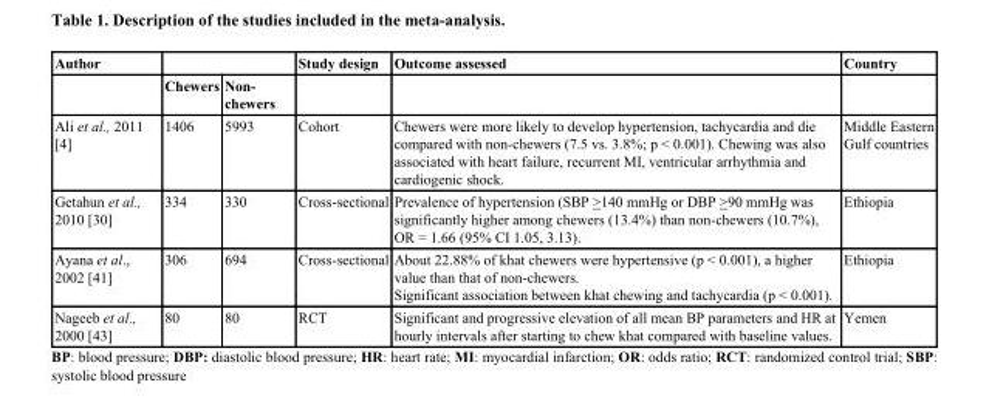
<table><thead><tr><td rowspan="2">Author</td><td rowspan="2">Chewers</td><td rowspan="2">Non- chewers</td><td rowspan="2">Study design</td><td rowspan="2">Outcome assessed</td><td rowspan="2">Country</td></tr><tr></tr></thead><tbody><tr><td>Ali et al., 2011 [4]</td><td>1406</td><td>5993</td><td>Cohort</td><td>Chewers were more likely to develop hypertension, tachycardia and die compared with non-chewers (7.5 vs. 3.8%; p ˂ 0.001). Chewing was also associated with heart failure, recurrent MI, ventricular arrhythmia and cardiogenic shock.</td><td>Middle Eastern Gulf countries</td></tr><tr><td>Getahun et al., 2010 [30]</td><td>334</td><td>330</td><td>Cross-sectional</td><td>Prevalence of hypertension (SBP &gt;140 mmHg or DBP &gt;90 mmHg was significantly higher among chewers (13.4%) than non-chewers (10.7%), OR = 1.66 (95% CI 1.05, 3.13).</td><td>Ethiopia</td></tr><tr><td>Ayana et al., 2002 [41]</td><td>306</td><td>694</td><td>Cross-sectional</td><td>About 22.88% of khat chewers were hypertensive (p &lt; 0.001), a higher value than that of non-chewers. Significant association between khat chewing and tachycardia (p &lt; 0.001).</td><td>Ethiopia</td></tr><tr><td>Nageeb et al., 2000 [43]</td><td>80</td><td>80</td><td>RCT</td><td>Significant and progressive elevation of all mean BP parameters and HR at hourly intervals after starting to chew khat compared with baseline values.</td><td>Yemen</td></tr></tbody></table>